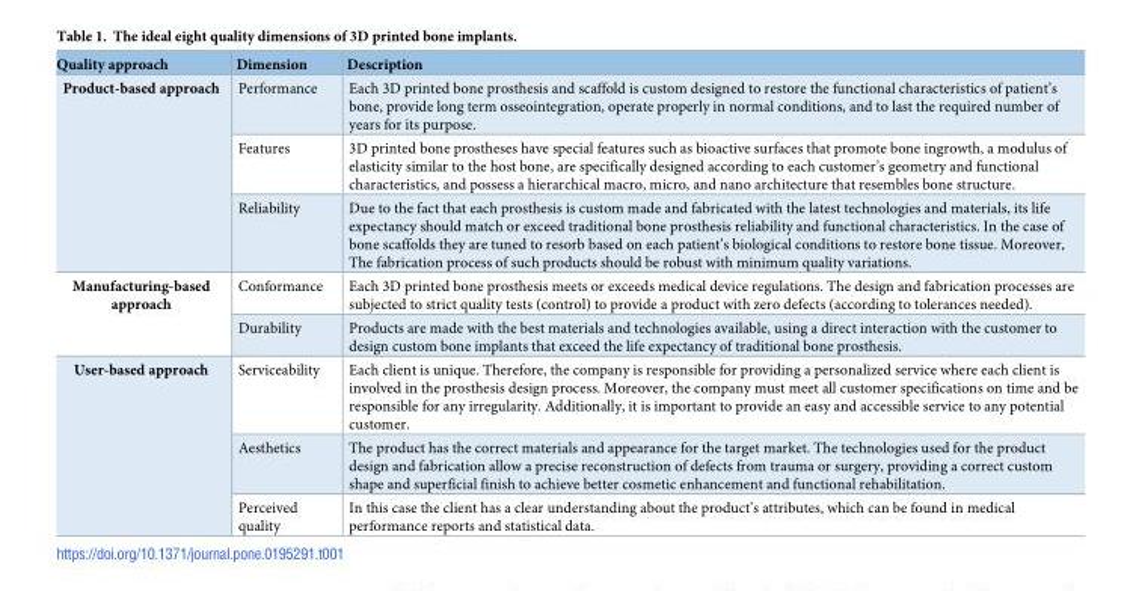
<table><thead><tr><td>Quality approach</td><td>Dimension</td><td>Description</td></tr></thead><tbody><tr><td rowspan="3">Product-based approach</td><td>Performance</td><td>Each 3D printed bone prosthesis and scaffold is custom designed to restore the functional characteristics of patient’s bone, provide long term osseointegration, operate properly in normal conditions, and to last the required number of years for its purpose.</td></tr><tr><td>Features</td><td>3D printed bone prostheses have special features such as bioactive surfaces that promote bone ingrowth, a modulus of elasticity similar to the host bone, are specifically designed according to each customer’s geometry and functional characteristics, and possess a hierarchical macro, micro, and nano architecture that resembles bone structure.</td></tr><tr><td>Reliability</td><td>Due to the fact that each prosthesis is custom made and fabricated with the latest technologies and materials, its life expectancy should match or exceed traditional bone prosthesis reliability and functional characteristics. In the case of bone scaffolds they are tuned to resorb based on each patient’s biological conditions to restore bone tissue. Moreover, The fabrication process of such products should be robust with minimum quality variations.</td></tr><tr><td rowspan="2">Manufacturing-based approach</td><td>Conformance</td><td>Each 3D printed bone prosthesis meets or exceeds medical device regulations. The design and fabrication processes are subjected to strict quality tests (control) to provide a product with zero defects (according to tolerances needed).</td></tr><tr><td>Durability</td><td>Products are made with the best materials and technologies available, using a direct interaction with the customer to design custom bone implants that exceed the life expectancy of traditional bone prosthesis.</td></tr><tr><td rowspan="3">User-based approach</td><td>Serviceability</td><td>Each client is unique. Therefore, the company is responsible for providing a personalized service where each client is involved in the prosthesis design process. Moreover, the company must meet all customer specifications on time and be responsible for any irregularity. Additionally, it is important to provide an easy and accessible service to any potential customer.</td></tr><tr><td>Aesthetics</td><td>The product has the correct materials and appearance for the target market. The technologies used for the product design and fabrication allow a precise reconstruction of defects from trauma or surgery, providing a correct custom shape and superficial finish to achieve better cosmetic enhancement and functional rehabilitation.</td></tr><tr><td>Perceived quality</td><td>In this case the client has a clear understanding about the product’s attributes, which can be found in medical performance reports and statistical data.</td></tr></tbody></table>